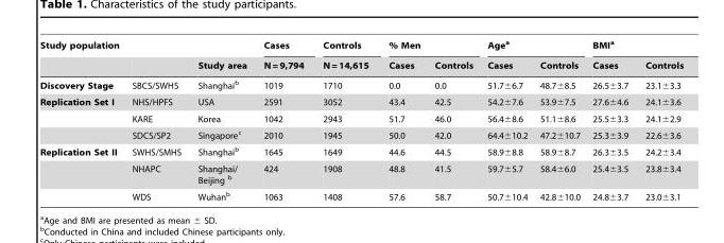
<table><thead><tr><td colspan="2">Study population</td><td rowspan="2">Study area</td><td rowspan="2">Cases N = 9,794</td><td rowspan="2">Controls N = 14,615</td><td colspan="2">% Men</td><td colspan="2">Age<sup>a</sup></td><td colspan="2">BMI<sup>a</sup></td></tr><tr><td></td><td></td><td>Cases</td><td>Controls</td><td>Cases</td><td>Controls</td><td>Cases</td><td>Controls</td></tr></thead><tbody><tr><td>Discovery Stage</td><td>SBCS/SWHS</td><td>Shanghai<sup>b</sup></td><td>1019</td><td>1710</td><td>0.0</td><td>0.0</td><td>51.7±6.7</td><td>48.7±8.5</td><td>26.5±3.7</td><td>23.1±3.3</td></tr><tr><td rowspan="3">Replication Set I</td><td>NHS/HPFS</td><td>USA</td><td>2591</td><td>3052</td><td>43.4</td><td>42.5</td><td>54.2±7.6</td><td>53.9±7.5</td><td>27.6±4.6</td><td>24.1±3.6</td></tr><tr><td>KARE</td><td>Korea</td><td>1042</td><td>2943</td><td>51.7</td><td>46.0</td><td>56.4±8.6</td><td>51.1±8.6</td><td>25.5±3.3</td><td>24.1±2.9</td></tr><tr><td>SDCS/SP2</td><td>Singapore<sup>c</sup></td><td>2010</td><td>1945</td><td>50.0</td><td>42.0</td><td>64.4±10.2</td><td>47.2±10.7</td><td>25.3±3.9</td><td>22.6±3.6</td></tr><tr><td rowspan="3">Replication Set II</td><td>SWHS/SMHS</td><td>Shanghai<sup>b</sup></td><td>1645</td><td>1649</td><td>44.6</td><td>44.5</td><td>58.9±8.8</td><td>58.9±8.7</td><td>26.3±3.5</td><td>24.2±3.4</td></tr><tr><td>NHAPC</td><td>Shanghai/ Beijing b</td><td>424</td><td>1908</td><td>48.8</td><td>41.5</td><td>59.7±5.7</td><td>58.4±6.0</td><td>25.4±3.5</td><td>23.8±3.4</td></tr><tr><td>WDS</td><td>Wuhan<sup>b</sup></td><td>1063</td><td>1408</td><td>57.6</td><td>58.7</td><td>50.7±10.4</td><td>42.8±10.0</td><td>24.8±3.7</td><td>23.0±3.1</td></tr></tbody></table>